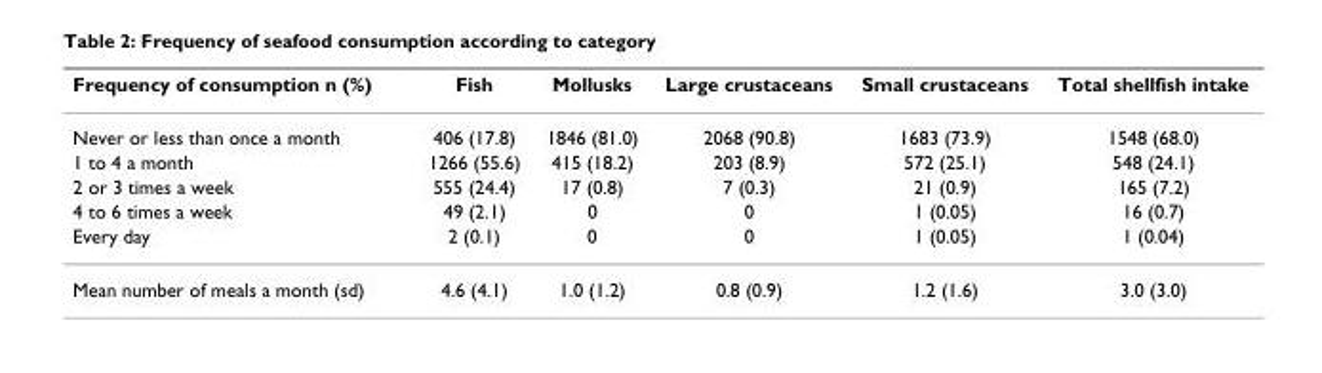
<table><thead><tr><td>Frequency of consumption n (%)</td><td>Fish</td><td>Mollusks</td><td>Large crustaceans</td><td>Small crustaceans</td><td>Total shellfish intake</td></tr></thead><tbody><tr><td>Never or less than once a month</td><td>406 (17.8)</td><td>1846 (81.0)</td><td>2068 (90.8)</td><td>1683 (73.9)</td><td>1548 (68.0)</td></tr><tr><td>1 to 4 a month</td><td>1266 (55.6)</td><td>415 (18.2)</td><td>203 (8.9)</td><td>572 (25.1)</td><td>548 (24.1)</td></tr><tr><td>2 or 3 times a week</td><td>555 (24.4)</td><td>17 (0.8)</td><td>7 (0.3)</td><td>21 (0.9)</td><td>165 (7.2)</td></tr><tr><td>4 to 6 times a week</td><td>49 (2.1)</td><td>0</td><td>0</td><td>1 (0.05)</td><td>16 (0.7)</td></tr><tr><td>Every day</td><td>2 (0.1)</td><td>0</td><td>0</td><td>1 (0.05)</td><td>1 (0.04)</td></tr><tr><td>Mean number of meals a month (sd)</td><td>4.6 (4.1)</td><td>1.0 (1.2)</td><td>0.8 (0.9)</td><td>1.2 (1.6)</td><td>3.0 (3.0)</td></tr></tbody></table>